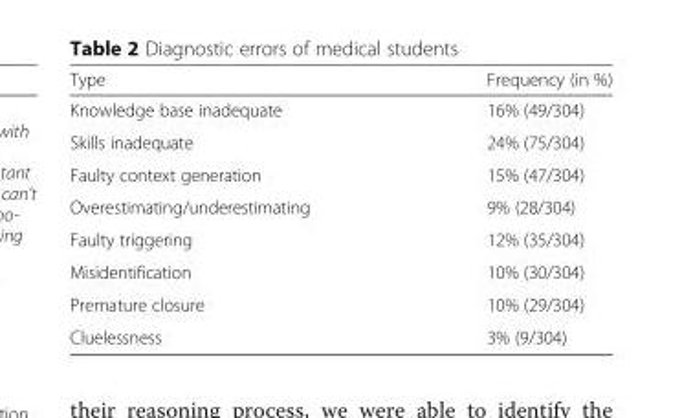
<table><thead><tr><td>Type</td><td>Frequency (in %)</td></tr></thead><tbody><tr><td>Knowledge base inadequate</td><td>16% (49/304)</td></tr><tr><td>Skills inadequate</td><td>24% (75/304)</td></tr><tr><td>Faulty context generation</td><td>15% (47/304)</td></tr><tr><td>Overestimating/underestimating</td><td>9% (28/304)</td></tr><tr><td>Faulty triggering</td><td>12% (35/304)</td></tr><tr><td>Misidentification</td><td>10% (30/304)</td></tr><tr><td>Premature closure</td><td>10% (29/304)</td></tr><tr><td>Cluelessness</td><td>3% (9/304)</td></tr></tbody></table>